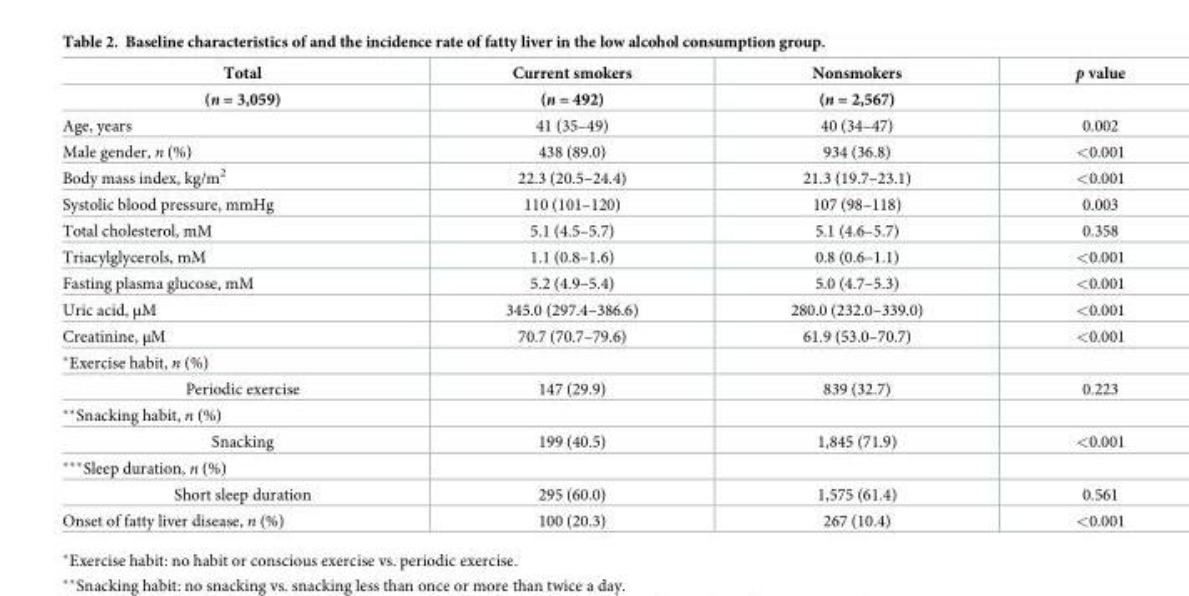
<table><thead><tr><td rowspan="2">Total (n = 3,059)</td><td rowspan="2">Current smokers (n = 492)</td><td rowspan="2">Nonsmokers (n = 2,567)</td><td rowspan="2">p value</td></tr><tr></tr></thead><tbody><tr><td>Age, years</td><td>41 (35–49)</td><td>40 (34–47)</td><td>0.002</td></tr><tr><td>Male gender, n (%)</td><td>438 (89.0)</td><td>934 (36.8)</td><td>&lt;0.001</td></tr><tr><td>Body mass index, kg/m<sup>2</sup></td><td>22.3 (20.5–24.4)</td><td>21.3 (19.7–23.1)</td><td>&lt;0.001</td></tr><tr><td>Systolic blood pressure, mmHg</td><td>110 (101–120)</td><td>107 (98–118)</td><td>0.003</td></tr><tr><td>Total cholesterol, mM</td><td>5.1 (4.5–5.7)</td><td>5.1 (4.6–5.7)</td><td>0.358</td></tr><tr><td>Triacylglycerols, mM</td><td>1.1 (0.8–1.6)</td><td>0.8 (0.6–1.1)</td><td>&lt;0.001</td></tr><tr><td>Fasting plasma glucose, mM</td><td>5.2 (4.9–5.4)</td><td>5.0 (4.7–5.3)</td><td>&lt;0.001</td></tr><tr><td>Uric acid, μM</td><td>345.0 (297.4–386.6)</td><td>280.0 (232.0–339.0)</td><td>&lt;0.001</td></tr><tr><td>Creatinine, μM</td><td>70.7 (70.7–79.6)</td><td>61.9 (53.0–70.7)</td><td>&lt;0.001</td></tr><tr><td colspan="4">*Exercise habit, n (%)</td></tr><tr><td>Periodic exercise</td><td>147 (29.9)</td><td>839 (32.7)</td><td>0.223</td></tr><tr><td colspan="4">**Snacking habit, n (%)</td></tr><tr><td>Snacking</td><td>199 (40.5)</td><td>1,845 (71.9)</td><td>&lt;0.001</td></tr><tr><td colspan="4">***Sleep duration, n (%)</td></tr><tr><td>Short sleep duration</td><td>295 (60.0)</td><td>1,575 (61.4)</td><td>0.561</td></tr><tr><td>Onset of fatty liver disease, n (%)</td><td>100 (20.3)</td><td>267 (10.4)</td><td>&lt;0.001</td></tr></tbody></table>